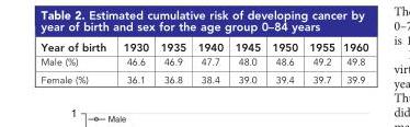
<table><thead><tr><td>Year of birth</td><td>1930</td><td>1935</td><td>1940</td><td>1945</td><td>1950</td><td>1955</td><td>1960</td></tr></thead><tbody><tr><td>Male (%)</td><td>46.6</td><td>46.9</td><td>47.7</td><td>48.0</td><td>48.6</td><td>49.2</td><td>49.8</td></tr><tr><td>Female (%)</td><td>36.1</td><td>36.8</td><td>38.4</td><td>39.0</td><td>39.4</td><td>39.7</td><td>39.9</td></tr></tbody></table>